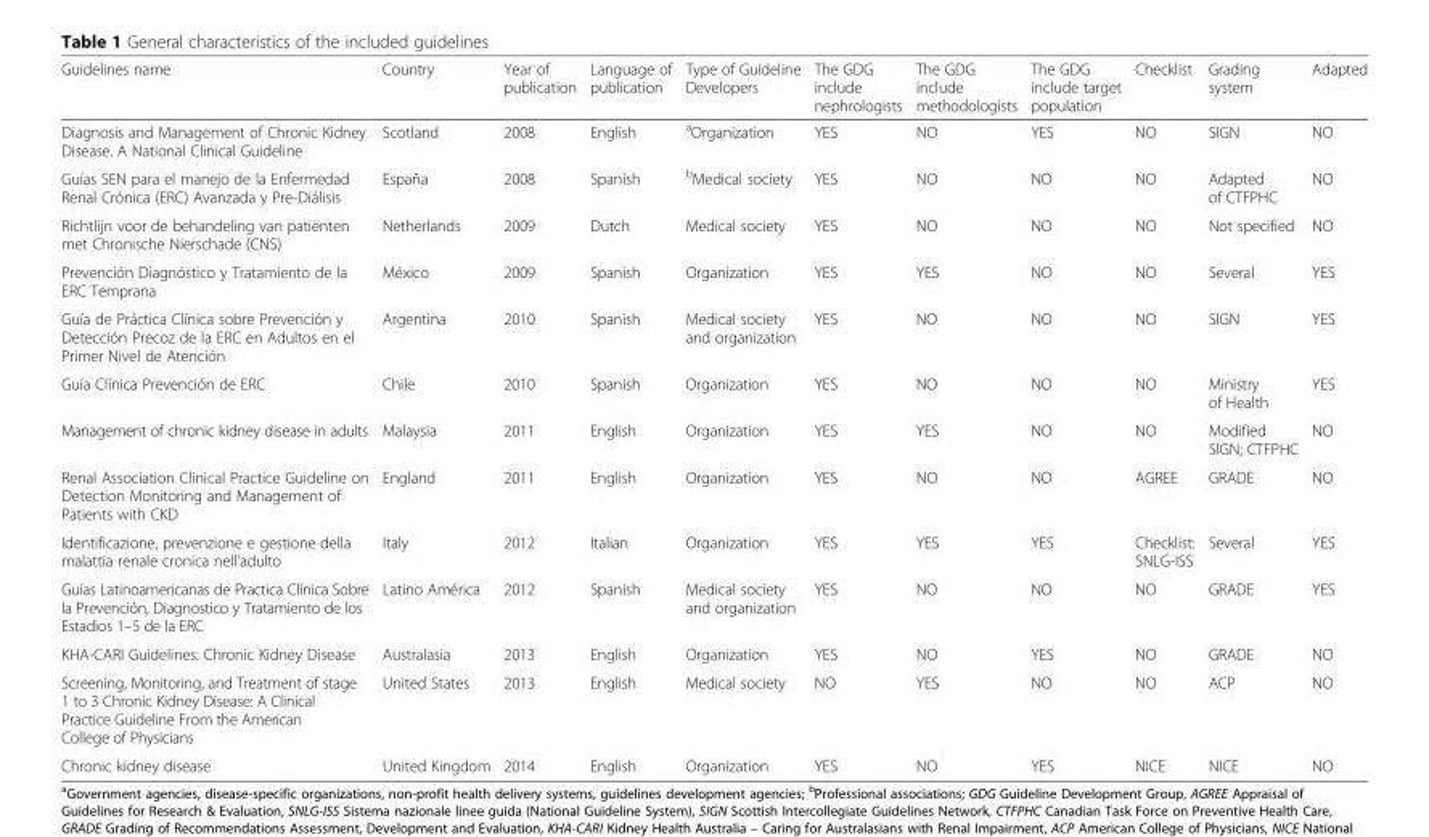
<table><thead><tr><td>Guidelines name</td><td>Country</td><td>Year of publication</td><td>Language of publication</td><td>Type of Guideline Developers</td><td>The GDG include nephrologists</td><td>The GDG include methodologists</td><td>The GDG include target population</td><td>Checklist</td><td>Grading system</td><td>Adapted</td></tr></thead><tbody><tr><td>Diagnosis and Management of Chronic Kidney Disease. A National Clinical Guideline</td><td>Scotland</td><td>2008</td><td>English</td><td><sup>a</sup>Organization</td><td>YES</td><td>NO</td><td>YES</td><td>NO</td><td>SIGN</td><td>NO</td></tr><tr><td>Guías SEN para el manejo de la Enfermedad Renal Crónica (ERC) Avanzada y Pre-Diálisis</td><td>España</td><td>2008</td><td>Spanish</td><td><sup>b</sup>Medical society</td><td>YES</td><td>NO</td><td>NO</td><td>NO</td><td>Adapted of CTFPHC</td><td>NO</td></tr><tr><td>Richtlijn voor de behandeling van patiënten met Chronische Nierschade (CNS)</td><td>Netherlands</td><td>2009</td><td>Dutch</td><td>Medical society</td><td>YES</td><td>NO</td><td>NO</td><td>NO</td><td>Not specified</td><td>NO</td></tr><tr><td>Prevención Diagnóstico y Tratamiento de la ERC Temprana</td><td>México</td><td>2009</td><td>Spanish</td><td>Organization</td><td>YES</td><td>YES</td><td>NO</td><td>NO</td><td>Several</td><td>YES</td></tr><tr><td>Guía de Práctica Clínica sobre Prevención y Detección Precoz de la ERC en Adultos en el Primer Nivel de Atención</td><td>Argentina</td><td>2010</td><td>Spanish</td><td>Medical society and organization</td><td>YES</td><td>NO</td><td>NO</td><td>NO</td><td>SIGN</td><td>YES</td></tr><tr><td>Guía Clínica Prevención de ERC</td><td>Chile</td><td>2010</td><td>Spanish</td><td>Organization</td><td>YES</td><td>NO</td><td>NO</td><td>NO</td><td>Ministry of Health</td><td>YES</td></tr><tr><td>Management of chronic kidney disease in adults</td><td>Malaysia</td><td>2011</td><td>English</td><td>Organization</td><td>YES</td><td>YES</td><td>NO</td><td>NO</td><td>Modified SIGN; CTFPHC</td><td>NO</td></tr><tr><td>Renal Association Clinical Practice Guideline on Detection Monitoring and Management of Patients with CKD</td><td>England</td><td>2011</td><td>English</td><td>Organization</td><td>YES</td><td>NO</td><td>NO</td><td>AGREE</td><td>GRADE</td><td>NO</td></tr><tr><td>Identificazione, prevenzione e gestione della malattia renale cronica nell’adulto</td><td>Italy</td><td>2012</td><td>Italian</td><td>Organization</td><td>YES</td><td>YES</td><td>YES</td><td>Checklist: SNLG-ISS</td><td>Several</td><td>YES</td></tr><tr><td>Guías Latinoamericanas de Practica Clínica Sobre la Prevención, Diagnostico y Tratamiento de los Estadios 1–5 de la ERC</td><td>Latino América</td><td>2012</td><td>Spanish</td><td>Medical society and organization</td><td>YES</td><td>NO</td><td>NO</td><td>NO</td><td>GRADE</td><td>YES</td></tr><tr><td>KHA-CARI Guidelines: Chronic Kidney Disease</td><td>Australasia</td><td>2013</td><td>English</td><td>Organization</td><td>YES</td><td>NO</td><td>YES</td><td>NO</td><td>GRADE</td><td>NO</td></tr><tr><td>Screening, Monitoring, and Treatment of stage 1 to 3 Chronic Kidney Disease: A Clinical Practice Guideline From the American College of Physicians</td><td>United States</td><td>2013</td><td>English</td><td>Medical society</td><td>NO</td><td>YES</td><td>NO</td><td>NO</td><td>ACP</td><td>NO</td></tr><tr><td>Chronic kidney disease</td><td>United Kingdom</td><td>2014</td><td>English</td><td>Organization</td><td>YES</td><td>NO</td><td>YES</td><td>NICE</td><td>NICE</td><td>NO</td></tr></tbody></table>